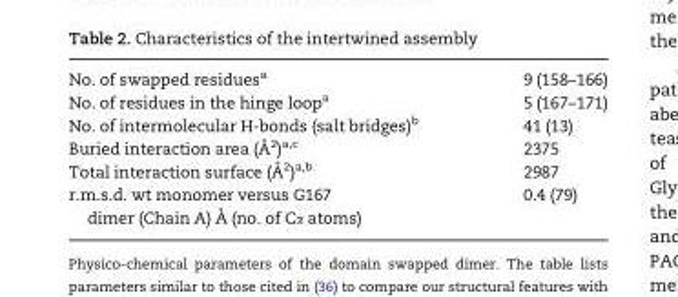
<table><tbody><tr><td>No. of swapped residues<sup>a</sup></td><td>9 (158–166)</td></tr><tr><td>No. of residues in the hinge loop<sup>a</sup></td><td>5 (167–171)</td></tr><tr><td>No. of intermolecular H-bonds (salt bridges)<sup>b</sup></td><td>41 (13)</td></tr><tr><td>Buried interaction area (A˚ 2)a,c</td><td>2375</td></tr><tr><td>Total interaction surface (A˚ 2)a,b</td><td>2987</td></tr><tr><td>r.m.s.d. wt monomer versus G167 dimer (Chain A) A˚ (no. of Ca atoms)</td><td>0.4 (79)</td></tr></tbody></table>